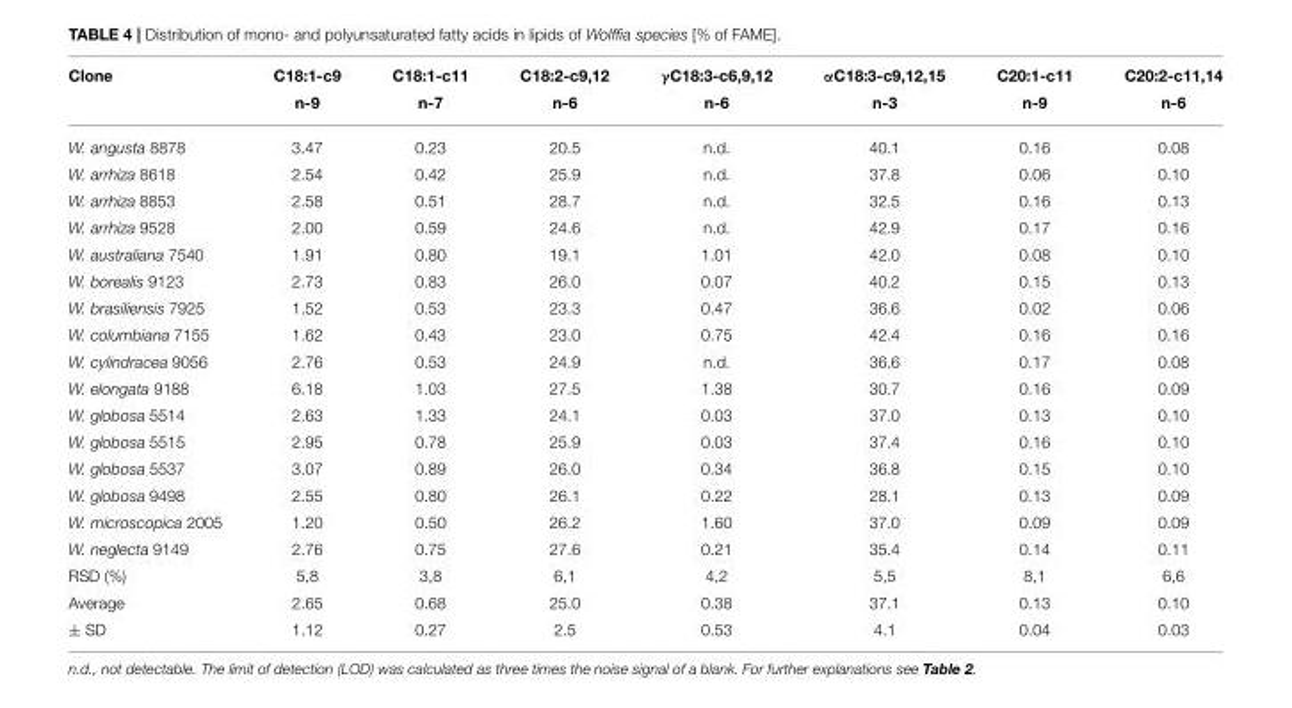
<table><thead><tr><td rowspan="2">Clone</td><td rowspan="2">C18:1-c9 n-9</td><td rowspan="2">C18:1-c11 n-7</td><td rowspan="2">C18:2-c9,12 n-6</td><td rowspan="2">γC18:3-c6,9,12 n-6</td><td rowspan="2">αC18:3-c9,12,15 n-3</td><td rowspan="2">C20:1-c11 n-9</td><td rowspan="2">C20:2-c11,14 n-6</td></tr><tr></tr></thead><tbody><tr><td>W. angusta 8878</td><td>3.47</td><td>0.23</td><td>20.5</td><td>n.d.</td><td>40.1</td><td>0.16</td><td>0.08</td></tr><tr><td>W. arrhiza 8618</td><td>2.54</td><td>0.42</td><td>25.9</td><td>n.d.</td><td>37.8</td><td>0.06</td><td>0.10</td></tr><tr><td>W. arrhiza 8853</td><td>2.58</td><td>0.51</td><td>28.7</td><td>n.d.</td><td>32.5</td><td>0.16</td><td>0.13</td></tr><tr><td>W. arrhiza 9528</td><td>2.00</td><td>0.59</td><td>24.6</td><td>n.d.</td><td>42.9</td><td>0.17</td><td>0.16</td></tr><tr><td>W. australiana 7540</td><td>1.91</td><td>0.80</td><td>19.1</td><td>1.01</td><td>42.0</td><td>0.08</td><td>0.10</td></tr><tr><td>W. borealis 9123</td><td>2.73</td><td>0.83</td><td>26.0</td><td>0.07</td><td>40.2</td><td>0.15</td><td>0.13</td></tr><tr><td>W. brasiliensis 7925</td><td>1.52</td><td>0.53</td><td>23.3</td><td>0.47</td><td>36.6</td><td>0.02</td><td>0.06</td></tr><tr><td>W. columbiana 7155</td><td>1.62</td><td>0.43</td><td>23.0</td><td>0.75</td><td>42.4</td><td>0.16</td><td>0.16</td></tr><tr><td>W. cylindracea 9056</td><td>2.76</td><td>0.53</td><td>24.9</td><td>n.d.</td><td>36.6</td><td>0.17</td><td>0.08</td></tr><tr><td>W. elongata 9188</td><td>6.18</td><td>1.03</td><td>27.5</td><td>1.38</td><td>30.7</td><td>0.16</td><td>0.09</td></tr><tr><td>W. globosa 5514</td><td>2.63</td><td>1.33</td><td>24.1</td><td>0.03</td><td>37.0</td><td>0.13</td><td>0.10</td></tr><tr><td>W. globosa 5515</td><td>2.95</td><td>0.78</td><td>25.9</td><td>0.03</td><td>37.4</td><td>0.16</td><td>0.10</td></tr><tr><td>W. globosa 5537</td><td>3.07</td><td>0.89</td><td>26.0</td><td>0.34</td><td>36.8</td><td>0.15</td><td>0.10</td></tr><tr><td>W. globosa 9498</td><td>2.55</td><td>0.80</td><td>26.1</td><td>0.22</td><td>28.1</td><td>0.13</td><td>0.09</td></tr><tr><td>W. microscopica 2005</td><td>1.20</td><td>0.50</td><td>26.2</td><td>1.60</td><td>37.0</td><td>0.09</td><td>0.09</td></tr><tr><td>W. neglecta 9149</td><td>2.76</td><td>0.75</td><td>27.6</td><td>0.21</td><td>35.4</td><td>0.14</td><td>0.11</td></tr><tr><td>RSD (%)</td><td>5,8</td><td>3,8</td><td>6,1</td><td>4,2</td><td>5,5</td><td>8,1</td><td>6,6</td></tr><tr><td>Average</td><td>2.65</td><td>0.68</td><td>25.0</td><td>0.38</td><td>37.1</td><td>0.13</td><td>0.10</td></tr><tr><td>± SD</td><td>1.12</td><td>0.27</td><td>2.5</td><td>0.53</td><td>4.1</td><td>0.04</td><td>0.03</td></tr></tbody></table>